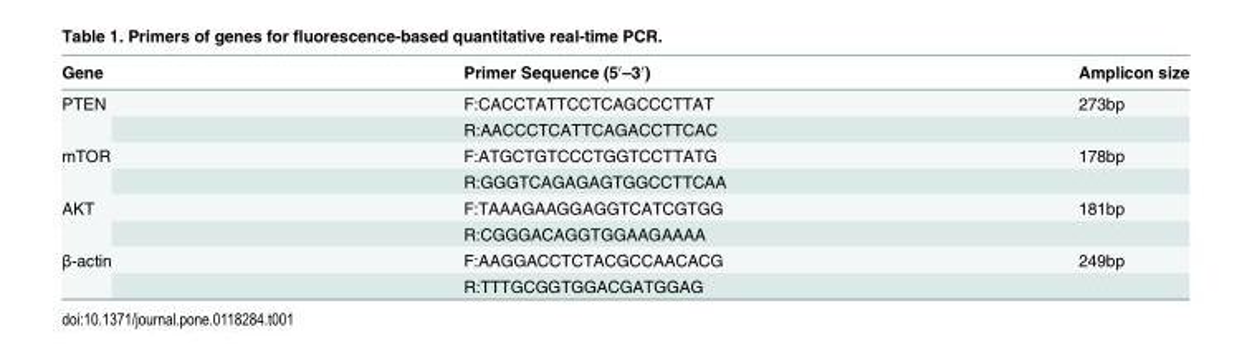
<table><thead><tr><td>Gene</td><td>Primer Sequence (5′–3′)</td><td>Amplicon size</td></tr></thead><tbody><tr><td rowspan="2">PTEN</td><td>F:CACCTATTCCTCAGCCCTTAT</td><td>273bp</td></tr><tr><td>R:AACCCTCATTCAGACCTTCAC</td><td></td></tr><tr><td rowspan="2">mTOR</td><td>F:ATGCTGTCCCTGGTCCTTATG</td><td>178bp</td></tr><tr><td>R:GGGTCAGAGAGTGGCCTTCAA</td><td></td></tr><tr><td rowspan="2">AKT</td><td>F:TAAAGAAGGAGGTCATCGTGG</td><td>181bp</td></tr><tr><td>R:CGGGACAGGTGGAAGAAAA</td><td></td></tr><tr><td rowspan="2">β-actin</td><td>F:AAGGACCTCTACGCCAACACG</td><td>249bp</td></tr><tr><td>R:TTTGCGGTGGACGATGGAG</td><td></td></tr></tbody></table>